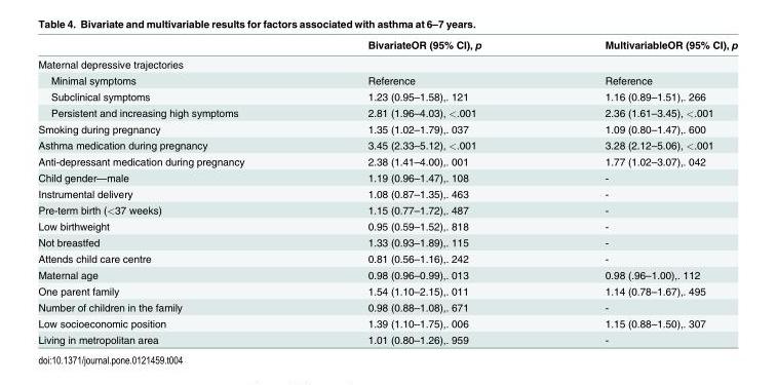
<table><thead><tr><td></td><td>BivariateOR (95% CI), p</td><td>MultivariableOR (95% CI), p</td></tr></thead><tbody><tr><td colspan="3">Maternal depressive trajectories</td></tr><tr><td>Minimal symptoms</td><td>Reference</td><td>Reference</td></tr><tr><td>Subclinical symptoms</td><td>1.23 (0.95–1.58),. 121</td><td>1.16 (0.89–1.51),. 266</td></tr><tr><td>Persistent and increasing high symptoms</td><td>2.81 (1.96–4.03), &lt;.001</td><td>2.36 (1.61–3.45), &lt;.001</td></tr><tr><td>Smoking during pregnancy</td><td>1.35 (1.02–1.79),. 037</td><td>1.09 (0.80–1.47),. 600</td></tr><tr><td>Asthma medication during pregnancy</td><td>3.45 (2.33–5.12), &lt;.001</td><td>3.28 (2.12–5.06), &lt;.001</td></tr><tr><td>Anti-depressant medication during pregnancy</td><td>2.38 (1.41–4.00),. 001</td><td>1.77 (1.02–3.07),. 042</td></tr><tr><td>Child gender—male</td><td>1.19 (0.96–1.47),. 108</td><td>-</td></tr><tr><td>Instrumental delivery</td><td>1.08 (0.87–1.35),. 463</td><td>-</td></tr><tr><td>Pre-term birth (&lt;37 weeks)</td><td>1.15 (0.77–1.72),. 487</td><td>-</td></tr><tr><td>Low birthweight</td><td>0.95 (0.59–1.52),. 818</td><td>-</td></tr><tr><td>Not breastfed</td><td>1.33 (0.93–1.89),. 115</td><td>-</td></tr><tr><td>Attends child care centre</td><td>0.81 (0.56–1.16),. 242</td><td>-</td></tr><tr><td>Maternal age</td><td>0.98 (0.96–0.99),. 013</td><td>0.98 (.96–1.00),. 112</td></tr><tr><td>One parent family</td><td>1.54 (1.10–2.15),. 011</td><td>1.14 (0.78–1.67),. 495</td></tr><tr><td>Number of children in the family</td><td>0.98 (0.88–1.08),. 671</td><td>-</td></tr><tr><td>Low socioeconomic position</td><td>1.39 (1.10–1.75),. 006</td><td>1.15 (0.88–1.50),. 307</td></tr><tr><td>Living in metropolitan area</td><td>1.01 (0.80–1.26),. 959</td><td>-</td></tr></tbody></table>